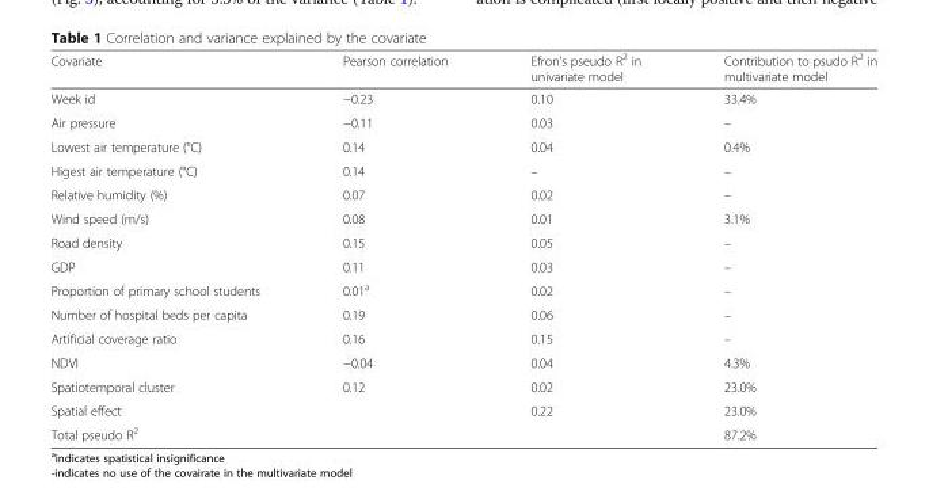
<table><thead><tr><td>Covariate</td><td>Pearson correlation</td><td>Efron’s pseudo R<sup>2</sup> in univariate model</td><td>Contribution to psudo R<sup>2</sup> in multivariate model</td></tr></thead><tbody><tr><td>Week id</td><td>−0.23</td><td>0.10</td><td>33.4%</td></tr><tr><td>Air pressure</td><td>−0.11</td><td>0.03</td><td>–</td></tr><tr><td>Lowest air temperature (°C)</td><td>0.14</td><td>0.04</td><td>0.4%</td></tr><tr><td>Higest air temperature (°C)</td><td>0.14</td><td>–</td><td>–</td></tr><tr><td>Relative humidity (%)</td><td>0.07</td><td>0.02</td><td>–</td></tr><tr><td>Wind speed (m/s)</td><td>0.08</td><td>0.01</td><td>3.1%</td></tr><tr><td>Road density</td><td>0.15</td><td>0.05</td><td>–</td></tr><tr><td>GDP</td><td>0.11</td><td>0.03</td><td>–</td></tr><tr><td>Proportion of primary school students</td><td>0.01<sup>a</sup></td><td>0.02</td><td>–</td></tr><tr><td>Number of hospital beds per capita</td><td>0.19</td><td>0.06</td><td>–</td></tr><tr><td>Artificial coverage ratio</td><td>0.16</td><td>0.15</td><td>–</td></tr><tr><td>NDVI</td><td>−0.04</td><td>0.04</td><td>4.3%</td></tr><tr><td>Spatiotemporal cluster</td><td>0.12</td><td>0.02</td><td>23.0%</td></tr><tr><td>Spatial effect</td><td></td><td>0.22</td><td>23.0%</td></tr><tr><td>Total pseudo R<sup>2</sup></td><td></td><td></td><td>87.2%</td></tr></tbody></table>